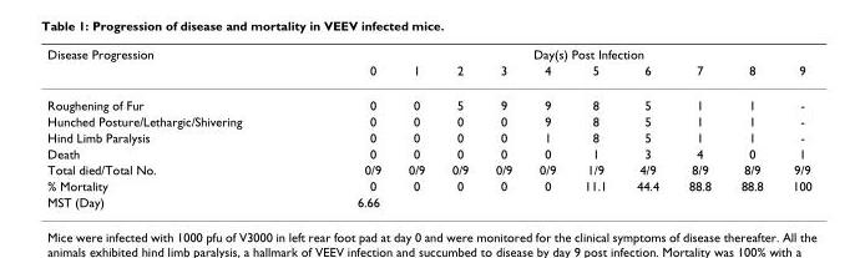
<table><thead><tr><td rowspan="2">Disease Progression</td><td colspan="10">Day(s) Post Infection</td></tr><tr><td>0</td><td>1</td><td>2</td><td>3</td><td>4</td><td>5</td><td>6</td><td>7</td><td>8</td><td>9</td></tr></thead><tbody><tr><td>Roughening of Fur</td><td>0</td><td>0</td><td>5</td><td>9</td><td>9</td><td>8</td><td>5</td><td>1</td><td>1</td><td>-</td></tr><tr><td>Hunched Posture/Lethargic/Shivering</td><td>0</td><td>0</td><td>0</td><td>0</td><td>9</td><td>8</td><td>5</td><td>1</td><td>1</td><td>-</td></tr><tr><td>Hind Limb Paralysis</td><td>0</td><td>0</td><td>0</td><td>0</td><td>1</td><td>8</td><td>5</td><td>1</td><td>1</td><td>-</td></tr><tr><td>Death</td><td>0</td><td>0</td><td>0</td><td>0</td><td>0</td><td>1</td><td>3</td><td>4</td><td>0</td><td>1</td></tr><tr><td>Total died/Total No.</td><td>0/9</td><td>0/9</td><td>0/9</td><td>0/9</td><td>0/9</td><td>1/9</td><td>4/9</td><td>8/9</td><td>8/9</td><td>9/9</td></tr><tr><td>% Mortality</td><td>0</td><td>0</td><td>0</td><td>0</td><td>0</td><td>11.1</td><td>44.4</td><td>88.8</td><td>88.8</td><td>100</td></tr><tr><td>MST (Day)</td><td colspan="10">6.66</td></tr></tbody></table>